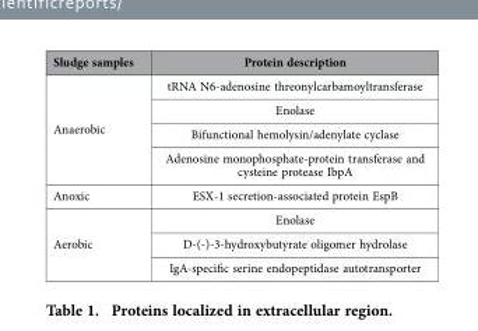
<table><thead><tr><td>Sludge samples</td><td>Protein description</td></tr></thead><tbody><tr><td rowspan="4">Anaerobic</td><td>tRNA N6-adenosine threonylcarbamoyltransferase</td></tr><tr><td>Enolase</td></tr><tr><td>Bifunctional hemolysin/adenylate cyclase</td></tr><tr><td>Adenosine monophosphate-protein transferase and cysteine protease IbpA</td></tr><tr><td>Anoxic</td><td>ESX-1 secretion-associated protein EspB</td></tr><tr><td rowspan="3">Aerobic</td><td>Enolase</td></tr><tr><td>D-(-)-3-hydroxybutyrate oligomer hydrolase</td></tr><tr><td>IgA-specific serine endopeptidase autotransporter</td></tr></tbody></table>